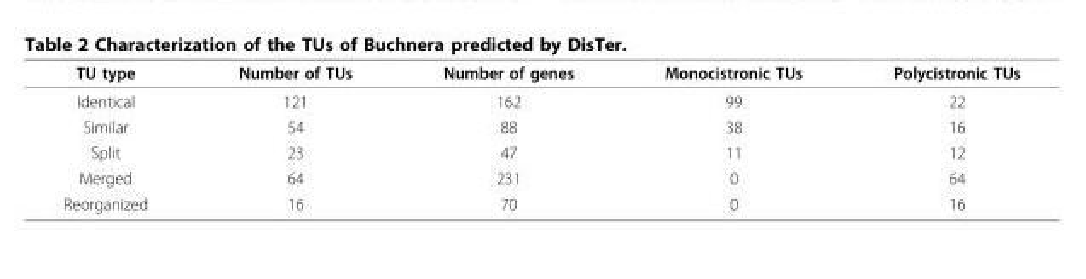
<table><thead><tr><td>TU type</td><td>Number of TUs</td><td>Number of genes</td><td>Monocistronic TUs</td><td>Polycistronic TUs</td></tr></thead><tbody><tr><td>Identical</td><td>121</td><td>162</td><td>99</td><td>22</td></tr><tr><td>Similar</td><td>54</td><td>88</td><td>38</td><td>16</td></tr><tr><td>Split</td><td>23</td><td>47</td><td>11</td><td>12</td></tr><tr><td>Merged</td><td>64</td><td>231</td><td>0</td><td>64</td></tr><tr><td>Reorganized</td><td>16</td><td>70</td><td>0</td><td>16</td></tr></tbody></table>